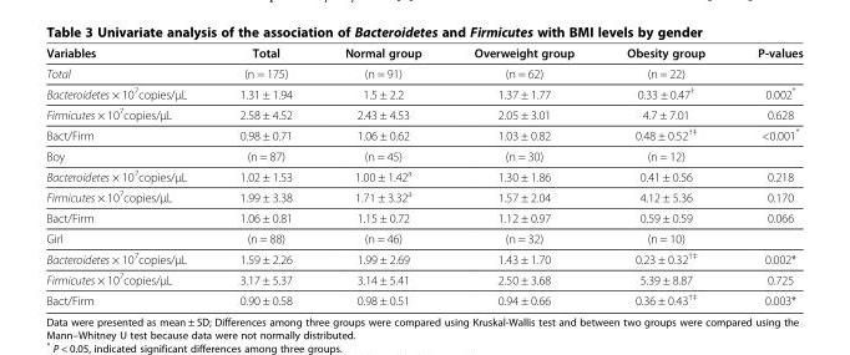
<table><thead><tr><td>Variables</td><td>Total</td><td>Normal group</td><td>Overweight group</td><td>Obesity group</td><td>P-values</td></tr></thead><tbody><tr><td>Total</td><td>(n = 175)</td><td>(n = 91)</td><td>(n = 62)</td><td>(n = 22)</td><td></td></tr><tr><td>Bacteroidetes × 10<sup>7</sup>copies/μL</td><td>1.31 ± 1.94</td><td>1.5 ± 2.2</td><td>1.37 ± 1.77</td><td>0.33 ± 0.47<sup>†</sup></td><td>0.002*</td></tr><tr><td>Firmicutes × 10<sup>7</sup>copies/μL</td><td>2.58 ± 4.52</td><td>2.43 ± 4.53</td><td>2.05 ± 3.01</td><td>4.7 ± 7.01</td><td>0.628</td></tr><tr><td>Bact/Firm</td><td>0.98 ± 0.71</td><td>1.06 ± 0.62</td><td>1.03 ± 0.82</td><td>0.48 ± 0.52<sup>†‡</sup></td><td>&lt;0.001*</td></tr><tr><td>Boy</td><td>(n = 87)</td><td>(n = 45)</td><td>(n = 30)</td><td>(n = 12)</td><td></td></tr><tr><td>Bacteroidetes × 10<sup>7</sup>copies/μL</td><td>1.02 ± 1.53</td><td>1.00 ± 1.42<sup>a</sup></td><td>1.30 ± 1.86</td><td>0.41 ± 0.56</td><td>0.218</td></tr><tr><td>Firmicutes × 10<sup>7</sup>copies/μL</td><td>1.99 ± 3.38</td><td>1.71 ± 3.32<sup>a</sup></td><td>1.57 ± 2.04</td><td>4.12 ± 5.36</td><td>0.170</td></tr><tr><td>Bact/Firm</td><td>1.06 ± 0.81</td><td>1.15 ± 0.72</td><td>1.12 ± 0.97</td><td>0.59 ± 0.59</td><td>0.066</td></tr><tr><td>Girl</td><td>(n = 88)</td><td>(n = 46)</td><td>(n = 32)</td><td>(n = 10)</td><td></td></tr><tr><td>Bacteroidetes × 10<sup>7</sup>copies/μL</td><td>1.59 ± 2.26</td><td>1.99 ± 2.69</td><td>1.43 ± 1.70</td><td>0.23 ± 0.32<sup>†‡</sup></td><td>0.002*</td></tr><tr><td>Firmicutes × 10<sup>7</sup>copies/μL</td><td>3.17 ± 5.37</td><td>3.14 ± 5.41</td><td>2.50 ± 3.68</td><td>5.39 ± 8.87</td><td>0.725</td></tr><tr><td>Bact/Firm</td><td>0.90 ± 0.58</td><td>0.98 ± 0.51</td><td>0.94 ± 0.66</td><td>0.36 ± 0.43<sup>†‡</sup></td><td>0.003*</td></tr></tbody></table>